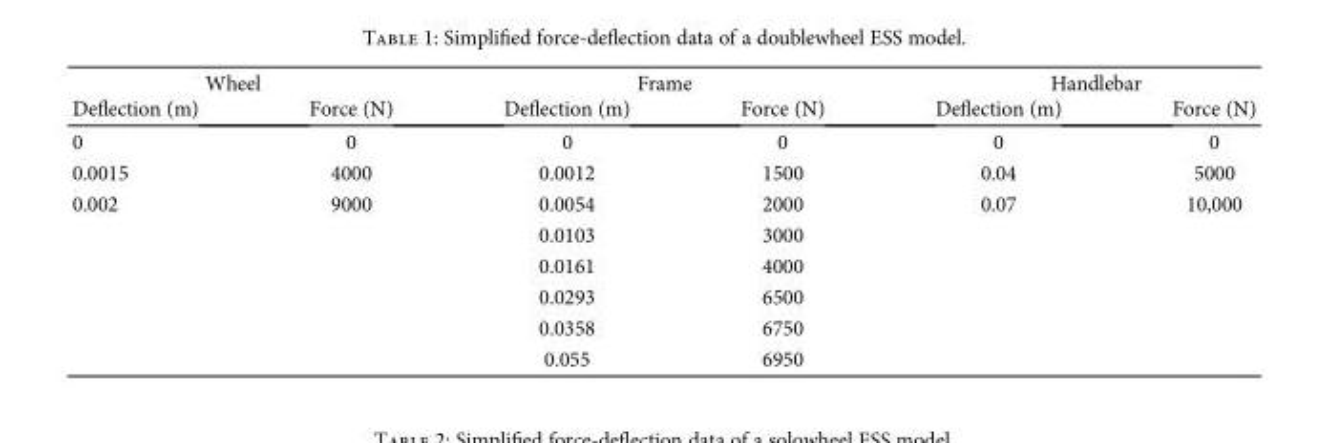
<table><thead><tr><td colspan="2">Wheel</td><td colspan="2">Frame</td><td colspan="2">Handlebar</td></tr><tr><td>Deflection (m)</td><td>Force (N)</td><td>Deflection (m)</td><td>Force (N)</td><td>Deflection (m)</td><td>Force (N)</td></tr></thead><tbody><tr><td>0</td><td>0</td><td>0</td><td>0</td><td>0</td><td>0</td></tr><tr><td>0.0015</td><td>4000</td><td>0.0012</td><td>1500</td><td>0.04</td><td>5000</td></tr><tr><td rowspan="6">0.002</td><td>9000</td><td>0.0054</td><td>2000</td><td>0.07</td><td>10,000</td></tr><tr><td></td><td>0.0103</td><td>3000</td><td></td><td></td></tr><tr><td></td><td>0.0161</td><td>4000</td><td></td><td></td></tr><tr><td></td><td>0.0293</td><td>6500</td><td></td><td></td></tr><tr><td></td><td>0.0358</td><td>6750</td><td></td><td></td></tr><tr><td></td><td>0.055</td><td>6950</td><td></td><td></td></tr></tbody></table>